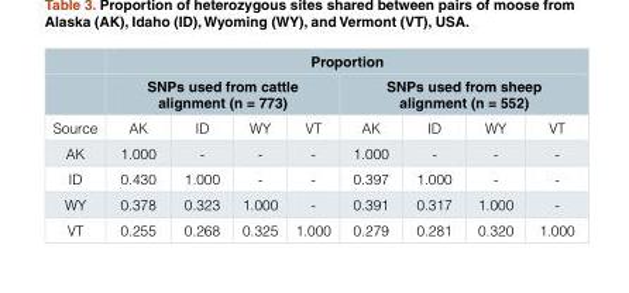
<table><thead><tr><td rowspan="3">Source</td><td colspan="8">Proportion</td></tr><tr><td colspan="4">SNPs used from cattle alignment (n = 773)</td><td colspan="4">SNPs used from sheep alignment (n = 552)</td></tr><tr><td>AK</td><td>ID</td><td>WY</td><td>VT</td><td>AK</td><td>ID</td><td>WY</td><td>VT</td></tr></thead><tbody><tr><td>AK</td><td>1.000</td><td>-</td><td>-</td><td>-</td><td>1.000</td><td>-</td><td>-</td><td>-</td></tr><tr><td>ID</td><td>0.430</td><td>1.000</td><td>-</td><td>-</td><td>0.397</td><td>1.000</td><td>-</td><td>-</td></tr><tr><td>WY</td><td>0.378</td><td>0.323</td><td>1.000</td><td>-</td><td>0.391</td><td>0.317</td><td>1.000</td><td>-</td></tr><tr><td>VT</td><td>0.255</td><td>0.268</td><td>0.325</td><td>1.000</td><td>0.279</td><td>0.281</td><td>0.320</td><td>1.000</td></tr></tbody></table>